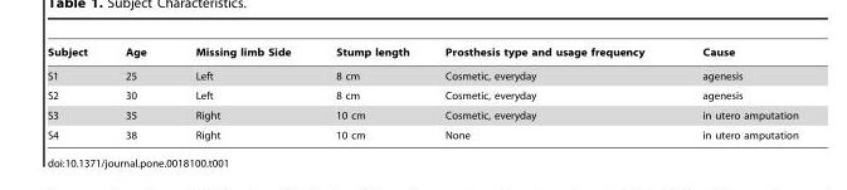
<table><thead><tr><td>Subject</td><td>Age</td><td>Missing limb Side</td><td>Stump length</td><td>Prosthesis type and usage frequency</td><td>Cause</td></tr></thead><tbody><tr><td>S1</td><td>25</td><td>Left</td><td>8 cm</td><td>Cosmetic, everyday</td><td>agenesis</td></tr><tr><td>S2</td><td>30</td><td>Left</td><td>8 cm</td><td>Cosmetic, everyday</td><td>agenesis</td></tr><tr><td>S3</td><td>35</td><td>Right</td><td>10 cm</td><td>Cosmetic, everyday</td><td>in utero amputation</td></tr><tr><td>S4</td><td>38</td><td>Right</td><td>10 cm</td><td>None</td><td>in utero amputation</td></tr></tbody></table>